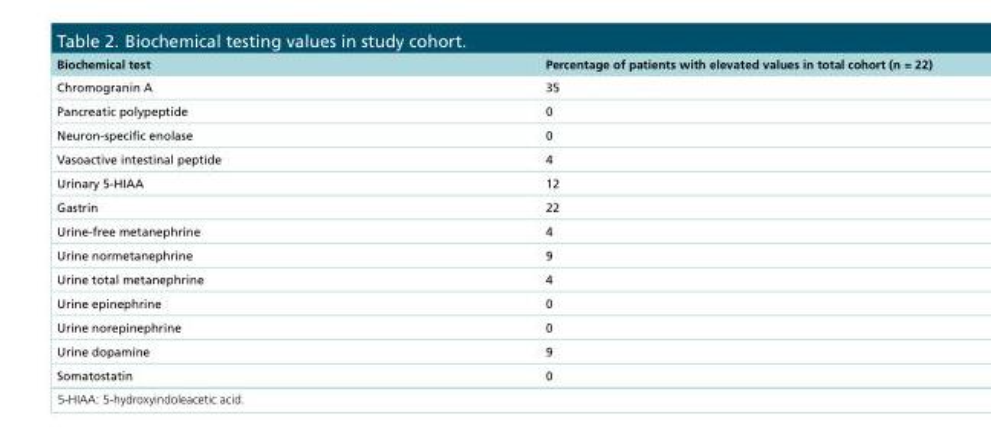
<table><thead><tr><td>Biochemical test</td><td>Percentage of patients with elevated values in total cohort (n = 22)</td></tr></thead><tbody><tr><td>Chromogranin A</td><td>35</td></tr><tr><td>Pancreatic polypeptide</td><td>0</td></tr><tr><td>Neuron-specific enolase</td><td>0</td></tr><tr><td>Vasoactive intestinal peptide</td><td>4</td></tr><tr><td>Urinary 5-HIAA</td><td>12</td></tr><tr><td>Gastrin</td><td>22</td></tr><tr><td>Urine-free metanephrine</td><td>4</td></tr><tr><td>Urine normetanephrine</td><td>9</td></tr><tr><td>Urine total metanephrine</td><td>4</td></tr><tr><td>Urine epinephrine</td><td>0</td></tr><tr><td>Urine norepinephrine</td><td>0</td></tr><tr><td>Urine dopamine</td><td>9</td></tr><tr><td>Somatostatin</td><td>0</td></tr></tbody></table>